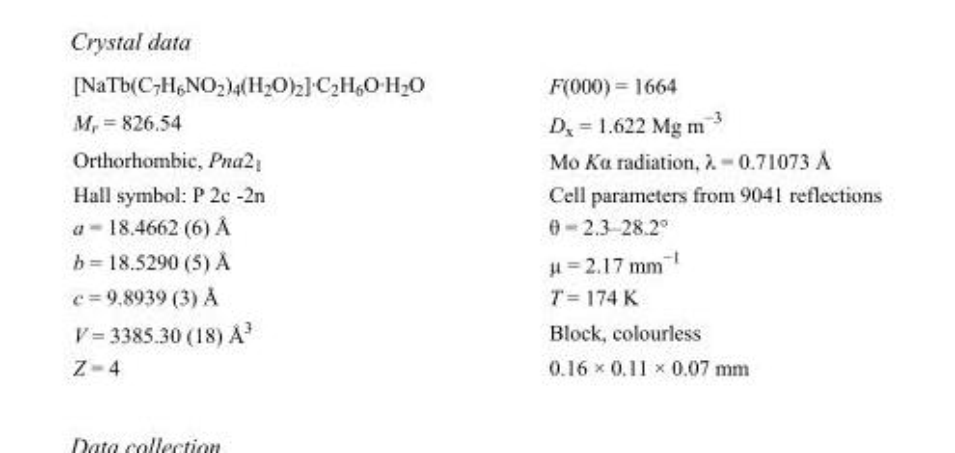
<table><tbody><tr><td>[NaTb(C<sub>7</sub>H<sub>6</sub>NO<sub>2</sub>)<sub>4</sub>(H<sub>2</sub>O)<sub>2</sub>]·C<sub>2</sub>H<sub>6</sub>O·H<sub>2</sub>O</td><td>F(000) = 1664</td></tr><tr><td>M<sub>r</sub> = 826.54</td><td>D<sub>x</sub> = 1.622 Mg m<sup>−3</sup></td></tr><tr><td>Orthorhombic, Pna2<sub>1</sub></td><td>Mo Kα radiation, λ = 0.71073 Å</td></tr><tr><td>Hall symbol: P 2c -2n</td><td>Cell parameters from 9041 reflections</td></tr><tr><td>a = 18.4662 (6) Å</td><td>θ = 2.3–28.2°</td></tr><tr><td>b = 18.5290 (5) Å</td><td>µ = 2.17 mm<sup>−1</sup></td></tr><tr><td>c = 9.8939 (3) Å</td><td>T = 174 K</td></tr><tr><td>V = 3385.30 (18) Å<sup>3</sup></td><td>Block, colourless</td></tr><tr><td>Z = 4</td><td>0.16 × 0.11 × 0.07 mm</td></tr></tbody></table>